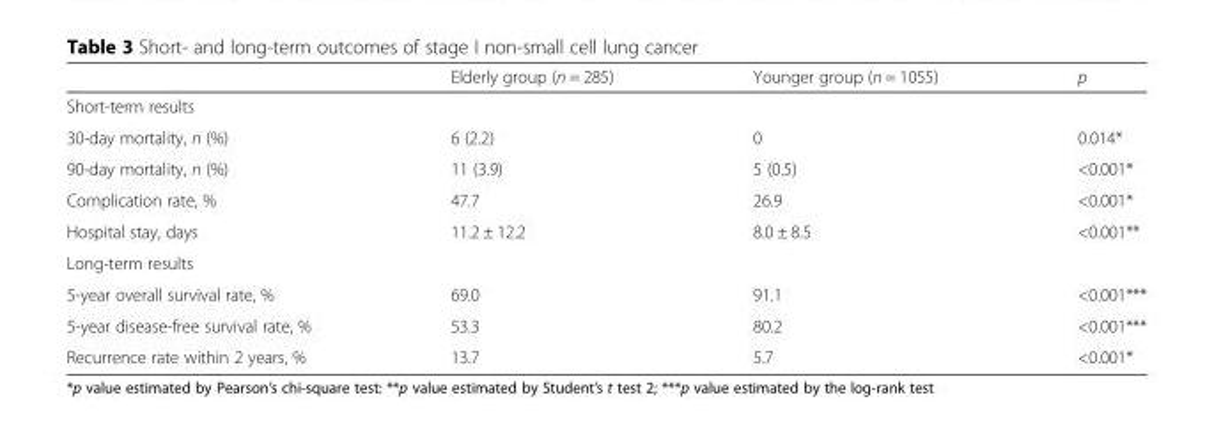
<table><thead><tr><td></td><td>Elderly group (n = 285)</td><td>Younger group (n = 1055)</td><td>p</td></tr></thead><tbody><tr><td colspan="4">Short-term results</td></tr><tr><td>30-day mortality, n (%)</td><td>6 (2.2)</td><td>0</td><td>0.014*</td></tr><tr><td>90-day mortality, n (%)</td><td>11 (3.9)</td><td>5 (0.5)</td><td>&lt;0.001*</td></tr><tr><td>Complication rate, %</td><td>47.7</td><td>26.9</td><td>&lt;0.001*</td></tr><tr><td>Hospital stay, days</td><td>11.2 ± 12.2</td><td>8.0 ± 8.5</td><td>&lt;0.001**</td></tr><tr><td colspan="4">Long-term results</td></tr><tr><td>5-year overall survival rate, %</td><td>69.0</td><td>91.1</td><td>&lt;0.001***</td></tr><tr><td>5-year disease-free survival rate, %</td><td>53.3</td><td>80.2</td><td>&lt;0.001***</td></tr><tr><td>Recurrence rate within 2 years, %</td><td>13.7</td><td>5.7</td><td>&lt;0.001*</td></tr></tbody></table>